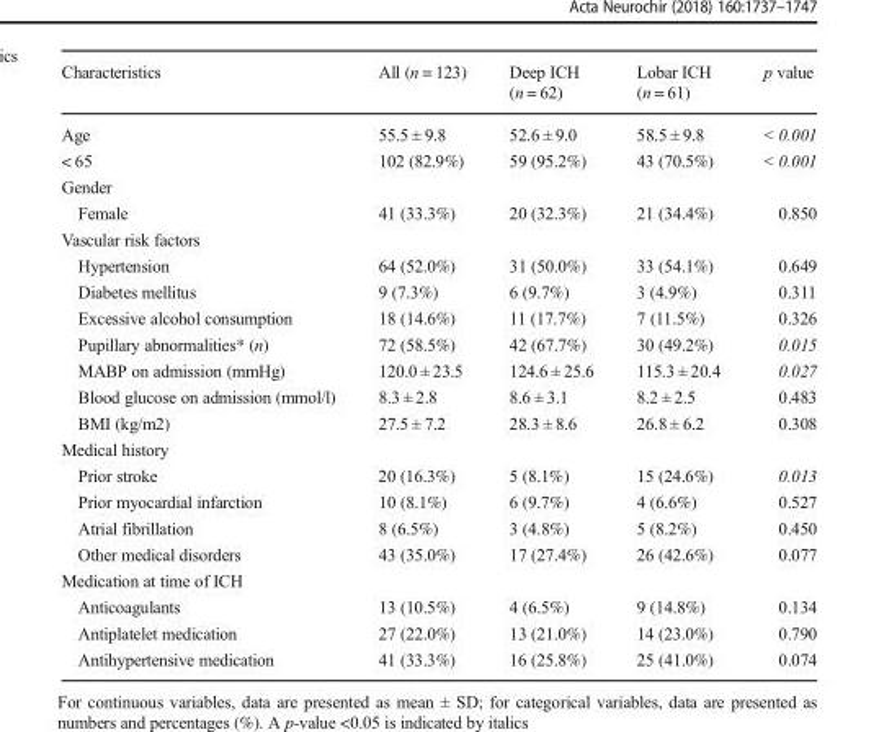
<table><thead><tr><td>Characteristics</td><td>All (n = 123)</td><td>Deep ICH (n = 62)</td><td>Lobar ICH (n = 61)</td><td>p value</td></tr></thead><tbody><tr><td>Age</td><td>55.5 ± 9.8</td><td>52.6 ± 9.0</td><td>58.5 ± 9.8</td><td>&lt; 0.001</td></tr><tr><td>&lt; 65</td><td>102 (82.9%)</td><td>59 (95.2%)</td><td>43 (70.5%)</td><td>&lt; 0.001</td></tr><tr><td colspan="5">Gender</td></tr><tr><td>Female</td><td>41 (33.3%)</td><td>20 (32.3%)</td><td>21 (34.4%)</td><td>0.850</td></tr><tr><td colspan="5">Vascular risk factors</td></tr><tr><td>Hypertension</td><td>64 (52.0%)</td><td>31 (50.0%)</td><td>33 (54.1%)</td><td>0.649</td></tr><tr><td>Diabetes mellitus</td><td>9 (7.3%)</td><td>6 (9.7%)</td><td>3 (4.9%)</td><td>0.311</td></tr><tr><td>Excessive alcohol consumption</td><td>18 (14.6%)</td><td>11 (17.7%)</td><td>7 (11.5%)</td><td>0.326</td></tr><tr><td>Pupillary abnormalities* (n)</td><td>72 (58.5%)</td><td>42 (67.7%)</td><td>30 (49.2%)</td><td>0.015</td></tr><tr><td>MABP on admission (mmHg)</td><td>120.0 ± 23.5</td><td>124.6 ± 25.6</td><td>115.3 ± 20.4</td><td>0.027</td></tr><tr><td>Blood glucose on admission (mmol/l)</td><td>8.3 ± 2.8</td><td>8.6 ± 3.1</td><td>8.2 ± 2.5</td><td>0.483</td></tr><tr><td>BMI (kg/m2)</td><td>27.5 ± 7.2</td><td>28.3 ± 8.6</td><td>26.8 ± 6.2</td><td>0.308</td></tr><tr><td colspan="5">Medical history</td></tr><tr><td>Prior stroke</td><td>20 (16.3%)</td><td>5 (8.1%)</td><td>15 (24.6%)</td><td>0.013</td></tr><tr><td>Prior myocardial infarction</td><td>10 (8.1%)</td><td>6 (9.7%)</td><td>4 (6.6%)</td><td>0.527</td></tr><tr><td>Atrial fibrillation</td><td>8 (6.5%)</td><td>3 (4.8%)</td><td>5 (8.2%)</td><td>0.450</td></tr><tr><td>Other medical disorders</td><td>43 (35.0%)</td><td>17 (27.4%)</td><td>26 (42.6%)</td><td>0.077</td></tr><tr><td colspan="5">Medication at time of ICH</td></tr><tr><td>Anticoagulants</td><td>13 (10.5%)</td><td>4 (6.5%)</td><td>9 (14.8%)</td><td>0.134</td></tr><tr><td>Antiplatelet medication</td><td>27 (22.0%)</td><td>13 (21.0%)</td><td>14 (23.0%)</td><td>0.790</td></tr><tr><td>Antihypertensive medication</td><td>41 (33.3%)</td><td>16 (25.8%)</td><td>25 (41.0%)</td><td>0.074</td></tr></tbody></table>